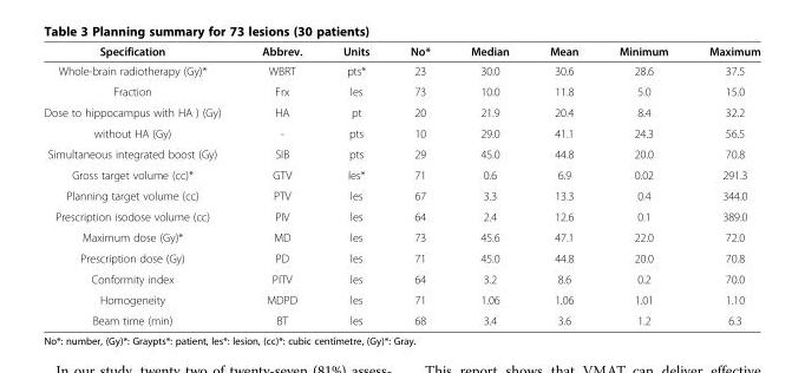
<table><thead><tr><td>Specification</td><td>Abbrev.</td><td>Units</td><td>No*</td><td>Median</td><td>Mean</td><td>Minimum</td><td>Maximum</td></tr></thead><tbody><tr><td>Whole-brain radiotherapy (Gy)*</td><td>WBRT</td><td>pts*</td><td>23</td><td>30.0</td><td>30.6</td><td>28.6</td><td>37.5</td></tr><tr><td>Fraction</td><td>Frx</td><td>les</td><td>73</td><td>10.0</td><td>11.8</td><td>5.0</td><td>15.0</td></tr><tr><td>Dose to hippocampus with HA ) (Gy)</td><td>HA</td><td>pt</td><td>20</td><td>21.9</td><td>20.4</td><td>8.4</td><td>32.2</td></tr><tr><td>without HA (Gy)</td><td>-</td><td>pts</td><td>10</td><td>29.0</td><td>41.1</td><td>24.3</td><td>56.5</td></tr><tr><td>Simultaneous integrated boost (Gy)</td><td>SIB</td><td>pts</td><td>29</td><td>45.0</td><td>44.8</td><td>20.0</td><td>70.8</td></tr><tr><td>Gross target volume (cc)*</td><td>GTV</td><td>les*</td><td>71</td><td>0.6</td><td>6.9</td><td>0.02</td><td>291.3</td></tr><tr><td>Planning target volume (cc)</td><td>PTV</td><td>les</td><td>67</td><td>3.3</td><td>13.3</td><td>0.4</td><td>344.0</td></tr><tr><td>Prescription isodose volume (cc)</td><td>PIV</td><td>les</td><td>64</td><td>2.4</td><td>12.6</td><td>0.1</td><td>389.0</td></tr><tr><td>Maximum dose (Gy)*</td><td>MD</td><td>les</td><td>73</td><td>45.6</td><td>47.1</td><td>22.0</td><td>72.0</td></tr><tr><td>Prescription dose (Gy)</td><td>PD</td><td>les</td><td>71</td><td>45.0</td><td>44.8</td><td>20.0</td><td>70.8</td></tr><tr><td>Conformity index</td><td>PITV</td><td>les</td><td>64</td><td>3.2</td><td>8.6</td><td>0.2</td><td>70.0</td></tr><tr><td>Homogeneity</td><td>MDPD</td><td>les</td><td>71</td><td>1.06</td><td>1.06</td><td>1.01</td><td>1.10</td></tr><tr><td>Beam time (min)</td><td>BT</td><td>les</td><td>68</td><td>3.4</td><td>3.6</td><td>1.2</td><td>6.3</td></tr></tbody></table>